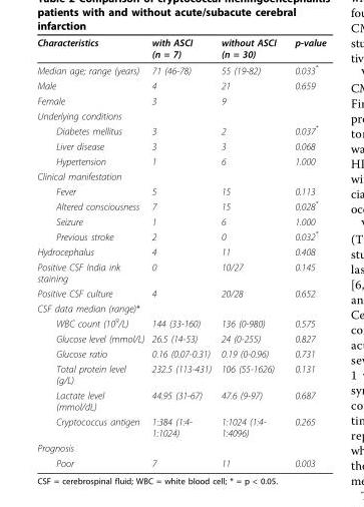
<table><thead><tr><td>Characteristics</td><td>with ASCI (n = 7)</td><td>without ASCI (n = 30)</td><td>p-value</td></tr></thead><tbody><tr><td>Median age; range (years)</td><td>71 (46-78)</td><td>55 (19-82)</td><td>0.033*</td></tr><tr><td>Male</td><td>4</td><td>21</td><td>0.659</td></tr><tr><td>Female</td><td>3</td><td>9</td><td></td></tr><tr><td colspan="4">Underlying conditions</td></tr><tr><td>Diabetes mellitus</td><td>3</td><td>2</td><td>0.037*</td></tr><tr><td>Liver disease</td><td>3</td><td>3</td><td>0.068</td></tr><tr><td>Hypertension</td><td>1</td><td>6</td><td>1.000</td></tr><tr><td colspan="4">Clinical manifestation</td></tr><tr><td>Fever</td><td>5</td><td>15</td><td>0.113</td></tr><tr><td>Altered consciousness</td><td>7</td><td>15</td><td>0.028*</td></tr><tr><td>Seizure</td><td>1</td><td>6</td><td>1.000</td></tr><tr><td>Previous stroke</td><td>2</td><td>0</td><td>0.032*</td></tr><tr><td>Hydrocephalus</td><td>4</td><td>11</td><td>0.408</td></tr><tr><td>Positive CSF India ink staining</td><td>0</td><td>10/27</td><td>0.145</td></tr><tr><td>Positive CSF culture</td><td>4</td><td>20/28</td><td>0.652</td></tr><tr><td colspan="4">CSF data median (range)*</td></tr><tr><td>WBC count (10<sup>9</sup>/L)</td><td>144 (33-160)</td><td>136 (0-980)</td><td>0.575</td></tr><tr><td>Glucose level (mmol/L)</td><td>26.5 (14-53)</td><td>24 (0-255)</td><td>0.827</td></tr><tr><td>Glucose ratio</td><td>0.16 (0.07-0.31)</td><td>0.19 (0-0.96)</td><td>0.731</td></tr><tr><td>Total protein level (g/L)</td><td>232.5 (113-431)</td><td>106 (55-1626)</td><td>0.131</td></tr><tr><td>Lactate level (mmol/dL)</td><td>44.95 (31-67)</td><td>47.6 (9-97)</td><td>0.687</td></tr><tr><td>Cryptococcus antigen</td><td>1:384 (1:4- 1:1024)</td><td>1:1024 (1:4- 1:4096)</td><td>0.265</td></tr><tr><td colspan="4">Prognosis</td></tr><tr><td>Poor</td><td>7</td><td>11</td><td>0.003</td></tr></tbody></table>